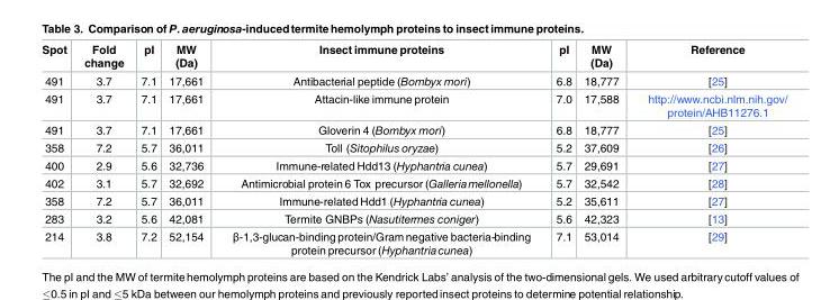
<table><thead><tr><td>Spot</td><td>Fold change</td><td>pI</td><td>MW (Da)</td><td>Insect immune proteins</td><td>pI</td><td>MW (Da)</td><td>Reference</td></tr></thead><tbody><tr><td>491</td><td>3.7</td><td>7.1</td><td>17,661</td><td>Antibacterial peptide (Bombyx mori)</td><td>6.8</td><td>18,777</td><td>[25]</td></tr><tr><td>491</td><td>3.7</td><td>7.1</td><td>17,661</td><td>Attacin-like immune protein</td><td>7.0</td><td>17,588</td><td>http://www.ncbi.nlm.nih.gov/ protein/AHB11276.1</td></tr><tr><td>491</td><td>3.7</td><td>7.1</td><td>17,661</td><td>Gloverin 4 (Bombyx mori)</td><td>6.8</td><td>18,777</td><td>[25]</td></tr><tr><td>358</td><td>7.2</td><td>5.7</td><td>36,011</td><td>Toll (Sitophilus oryzae)</td><td>5.2</td><td>37,609</td><td>[26]</td></tr><tr><td>400</td><td>2.9</td><td>5.6</td><td>32,736</td><td>Immune-related Hdd13 (Hyphantria cunea)</td><td>5.7</td><td>29,691</td><td>[27]</td></tr><tr><td>402</td><td>3.1</td><td>5.7</td><td>32,692</td><td>Antimicrobial protein 6 Tox precursor (Galleriamellonella)</td><td>5.7</td><td>32,542</td><td>[28]</td></tr><tr><td>358</td><td>7.2</td><td>5.7</td><td>36,011</td><td>Immune-related Hdd1 (Hyphantria cunea)</td><td>5.2</td><td>35,611</td><td>[27]</td></tr><tr><td>283</td><td>3.2</td><td>5.6</td><td>42,081</td><td>Termite GNBPs (Nasutitermes coniger)</td><td>5.6</td><td>42,323</td><td>[13]</td></tr><tr><td>214</td><td>3.8</td><td>7.2</td><td>52,154</td><td>β-1,3-glucan-binding protein/Gramnegative bacteria-binding protein precursor (Hyphantriacunea)</td><td>7.1</td><td>53,014</td><td>[29]</td></tr></tbody></table>